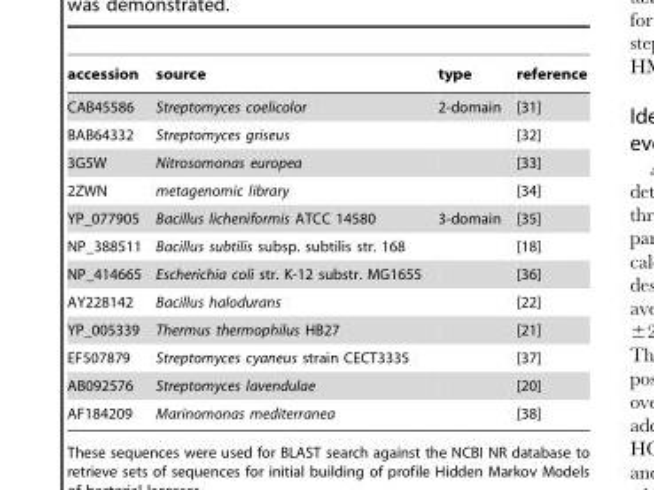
<table><thead><tr><td>accession</td><td>source</td><td>type</td><td>reference</td></tr></thead><tbody><tr><td>CAB45586</td><td>Streptomyces coelicolor</td><td>2-domain</td><td>[31]</td></tr><tr><td>BAB64332</td><td>Streptomyces griseus</td><td></td><td>[32]</td></tr><tr><td>3G5W</td><td>Nitrosomonas europea</td><td></td><td>[33]</td></tr><tr><td>2ZWN</td><td>metagenomic library</td><td></td><td>[34]</td></tr><tr><td>YP_077905</td><td>Bacillus licheniformis ATCC 14580</td><td>3-domain</td><td>[35]</td></tr><tr><td>NP_388511</td><td>Bacillus subtilis subsp. subtilis str. 168</td><td></td><td>[18]</td></tr><tr><td>NP_414665</td><td>Escherichia coli str. K-12 substr. MG1655</td><td></td><td>[36]</td></tr><tr><td>AY228142</td><td>Bacillus halodurans</td><td></td><td>[22]</td></tr><tr><td>YP_005339</td><td>Thermus thermophilus HB27</td><td></td><td>[21]</td></tr><tr><td>EF507879</td><td>Streptomyces cyaneus strain CECT3335</td><td></td><td>[37]</td></tr><tr><td>AB092576</td><td>Streptomyces lavendulae</td><td></td><td>[20]</td></tr><tr><td>AF184209</td><td>Marinomonas mediterranea</td><td></td><td>[38]</td></tr></tbody></table>